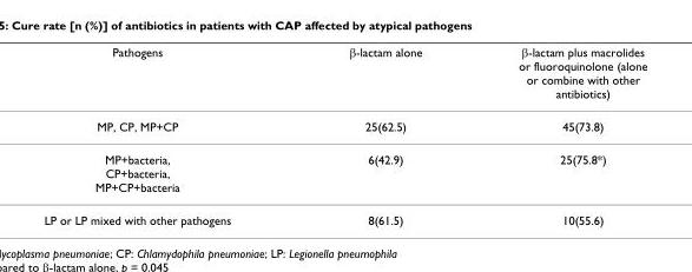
<table><thead><tr><td>Pathogens</td><td>β-lactam alone</td><td>β-lactam plus macrolides or fluoroquinolone (alone or combine with other antibiotics)</td></tr></thead><tbody><tr><td>MP, CP, MP+CP</td><td>25(62.5)</td><td>45(73.8)</td></tr><tr><td>MP+bacteria, CP+bacteria, MP+CP+bacteria</td><td>6(42.9)</td><td>25(75.8*)</td></tr><tr><td>LP or LP mixed with other pathogens</td><td>8(61.5)</td><td>10(55.6)</td></tr></tbody></table>